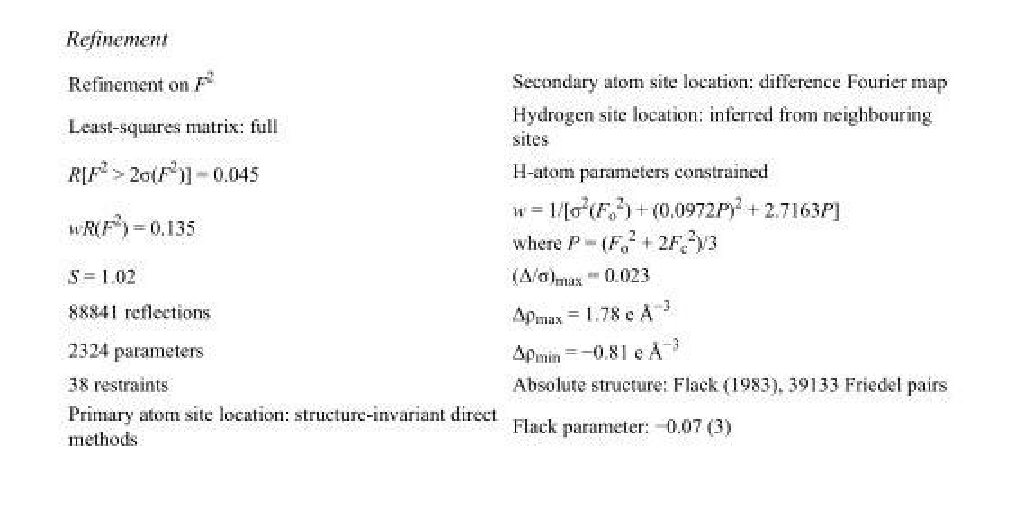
<table><tbody><tr><td>Refinement on F<sup>2</sup></td><td>Secondary atom site location: difference Fourier map</td></tr><tr><td>Least-squares matrix: full</td><td>Hydrogen site location: inferred from neighbouring sites</td></tr><tr><td>R[F<sup>2</sup> &gt; 2σ(F<sup>2</sup>)] = 0.045</td><td>H-atom parameters constrained</td></tr><tr><td>wR(F<sup>2</sup>) = 0.135</td><td>w = 1/[σ<sup>2</sup>(F<sub>o</sub> <sup>2</sup>) + (0.0972P)<sup>2</sup> + 2.7163P] where P = (F<sub>o</sub> <sup>2</sup> + 2F<sub>c</sub> <sup>2</sup>)/3</td></tr><tr><td>S = 1.02</td><td>(Δ/σ)<sub>max</sub> = 0.023</td></tr><tr><td>88841 reflections</td><td>Δρ<sub>max</sub> = 1.78 e Å<sup>−3</sup></td></tr><tr><td>2324 parameters</td><td>Δρ<sub>min</sub> = −0.81 e Å<sup>−3</sup></td></tr><tr><td>38 restraints</td><td>Absolute structure: Flack (1983), 39133 Friedel pairs</td></tr><tr><td>Primary atom site location: structure-invariant direct methods</td><td>Flack parameter: −0.07 (3)</td></tr></tbody></table>